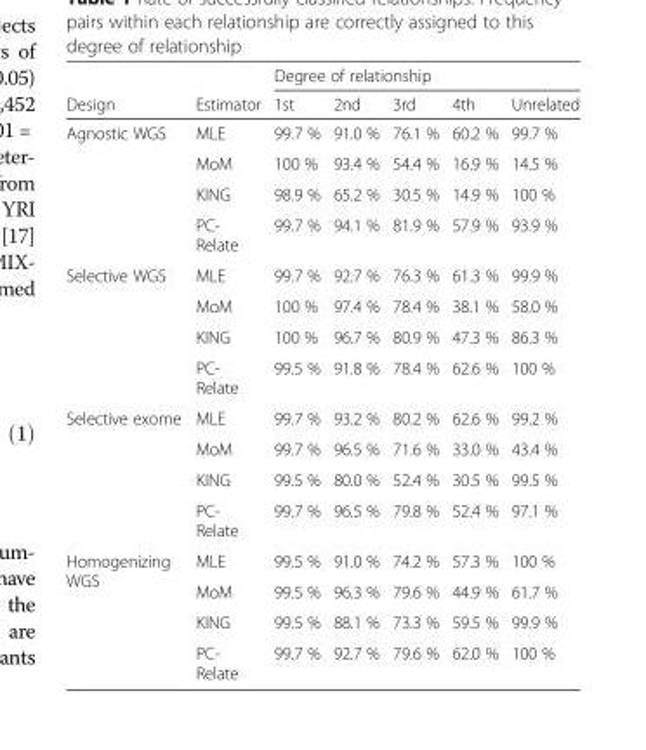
<table><thead><tr><td rowspan="2">Design</td><td rowspan="2">Estimator</td><td colspan="5">Degree of relationship</td></tr><tr><td>1st</td><td>2nd</td><td>3rd</td><td>4th</td><td>Unrelated</td></tr></thead><tbody><tr><td rowspan="4">Agnostic WGS</td><td>MLE</td><td>99.7 %</td><td>91.0 %</td><td>76.1 %</td><td>60.2 %</td><td>99.7 %</td></tr><tr><td>MoM</td><td>100 %</td><td>93.4 %</td><td>54.4 %</td><td>16.9 %</td><td>14.5 %</td></tr><tr><td>KING</td><td>98.9 %</td><td>65.2 %</td><td>30.5 %</td><td>14.9 %</td><td>100 %</td></tr><tr><td>PC- Relate</td><td>99.7 %</td><td>94.1 %</td><td>81.9 %</td><td>57.9 %</td><td>93.9 %</td></tr><tr><td rowspan="4">Selective WGS</td><td>MLE</td><td>99.7 %</td><td>92.7 %</td><td>76.3 %</td><td>61.3 %</td><td>99.9 %</td></tr><tr><td>MoM</td><td>100 %</td><td>97.4 %</td><td>78.4 %</td><td>38.1 %</td><td>58.0 %</td></tr><tr><td>KING</td><td>100 %</td><td>96.7 %</td><td>80.9 %</td><td>47.3 %</td><td>86.3 %</td></tr><tr><td>PC- Relate</td><td>99.5 %</td><td>91.8 %</td><td>78.4 %</td><td>62.6 %</td><td>100 %</td></tr><tr><td rowspan="4">Selective exome</td><td>MLE</td><td>99.7 %</td><td>93.2 %</td><td>80.2 %</td><td>62.6 %</td><td>99.2 %</td></tr><tr><td>MoM</td><td>99.7 %</td><td>96.5 %</td><td>71.6 %</td><td>33.0 %</td><td>43.4 %</td></tr><tr><td>KING</td><td>99.5 %</td><td>80.0 %</td><td>52.4 %</td><td>30.5 %</td><td>99.5 %</td></tr><tr><td>PC- Relate</td><td>99.7 %</td><td>96.5 %</td><td>79.8 %</td><td>52.4 %</td><td>97.1 %</td></tr><tr><td rowspan="4">Homogenizing WGS</td><td>MLE</td><td>99.5 %</td><td>91.0 %</td><td>74.2 %</td><td>57.3 %</td><td>100 %</td></tr><tr><td>MoM</td><td>99.5 %</td><td>96.3 %</td><td>79.6 %</td><td>44.9 %</td><td>61.7 %</td></tr><tr><td>KING</td><td>99.5 %</td><td>88.1 %</td><td>73.3 %</td><td>59.5 %</td><td>99.9 %</td></tr><tr><td>PC- Relate</td><td>99.7 %</td><td>92.7 %</td><td>79.6 %</td><td>62.0 %</td><td>100 %</td></tr></tbody></table>